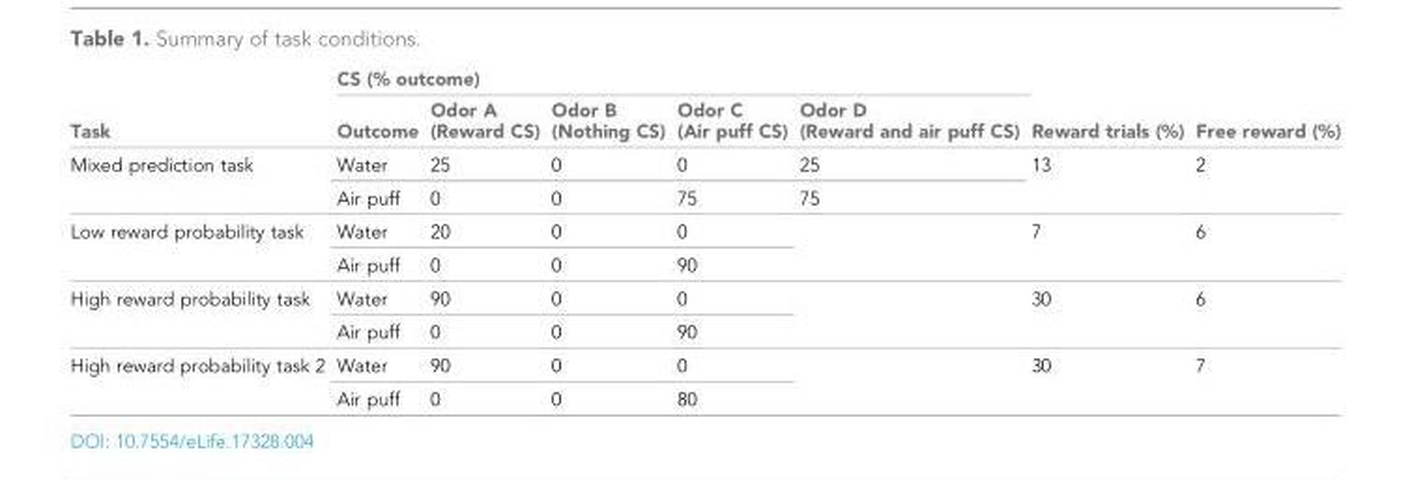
<table><thead><tr><td rowspan="2">Task</td><td colspan="5">CS (% outcome)</td><td rowspan="2">Reward trials (%)</td><td rowspan="2">Free reward (%)</td></tr><tr><td>Outcome</td><td>Odor A (Reward CS)</td><td>Odor B (Nothing CS)</td><td>Odor C (Air puff CS)</td><td>Odor D (Reward and air puff CS)</td></tr></thead><tbody><tr><td rowspan="2">Mixed prediction task</td><td>Water</td><td>25</td><td>0</td><td>0</td><td>25</td><td rowspan="2">13</td><td rowspan="2">2</td></tr><tr><td>Air puff</td><td>0</td><td>0</td><td>75</td><td>75</td></tr><tr><td rowspan="2">Low reward probability task</td><td>Water</td><td>20</td><td>0</td><td>0</td><td rowspan="2"></td><td rowspan="2">7</td><td rowspan="2">6</td></tr><tr><td>Air puff</td><td>0</td><td>0</td><td>90</td></tr><tr><td rowspan="2">High reward probability task</td><td>Water</td><td>90</td><td>0</td><td>0</td><td rowspan="2"></td><td rowspan="2">30</td><td rowspan="2">6</td></tr><tr><td>Air puff</td><td>0</td><td>0</td><td>90</td></tr><tr><td rowspan="2">High reward probability task 2</td><td>Water</td><td>90</td><td>0</td><td>0</td><td rowspan="2"></td><td rowspan="2">30</td><td rowspan="2">7</td></tr><tr><td>Air puff</td><td>0</td><td>0</td><td>80</td></tr></tbody></table>